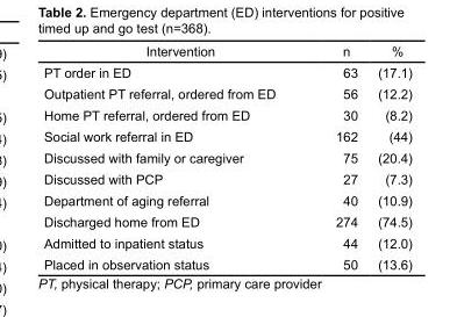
<table><thead><tr><td>Intervention</td><td>n</td><td>%</td></tr></thead><tbody><tr><td>PT order in ED</td><td>63</td><td>(17.1)</td></tr><tr><td>Outpatient PT referral, ordered from ED</td><td>56</td><td>(12.2)</td></tr><tr><td>Home PT referral, ordered from ED</td><td>30</td><td>(8.2)</td></tr><tr><td>Social work referral in ED</td><td>162</td><td>(44)</td></tr><tr><td>Discussed with family or caregiver</td><td>75</td><td>(20.4)</td></tr><tr><td>Discussed with PCP</td><td>27</td><td>(7.3)</td></tr><tr><td>Department of aging referral</td><td>40</td><td>(10.9)</td></tr><tr><td>Discharged home from ED</td><td>274</td><td>(74.5)</td></tr><tr><td>Admitted to inpatient status</td><td>44</td><td>(12.0)</td></tr><tr><td>Placed in observation status</td><td>50</td><td>(13.6)</td></tr></tbody></table>